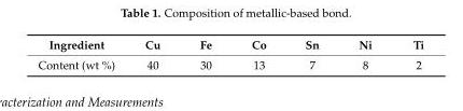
<table><thead><tr><td>Ingredient</td><td>Cu</td><td>Fe</td><td>Co</td><td>Sn</td><td>Ni</td><td>Ti</td></tr></thead><tbody><tr><td>Content (wt %)</td><td>40</td><td>30</td><td>13</td><td>7</td><td>8</td><td>2</td></tr></tbody></table>